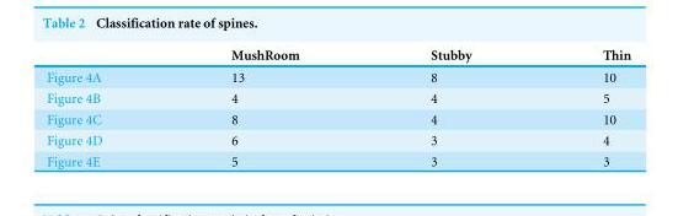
<table><thead><tr><td></td><td>MushRoom</td><td>Stubby</td><td>Thin</td></tr></thead><tbody><tr><td>Figure 4A</td><td>13</td><td>8</td><td>10</td></tr><tr><td>Figure 4B</td><td>4</td><td>4</td><td>5</td></tr><tr><td>Figure 4C</td><td>8</td><td>4</td><td>10</td></tr><tr><td>Figure 4D</td><td>6</td><td>3</td><td>4</td></tr><tr><td>Figure 4E</td><td>5</td><td>3</td><td>3</td></tr></tbody></table>